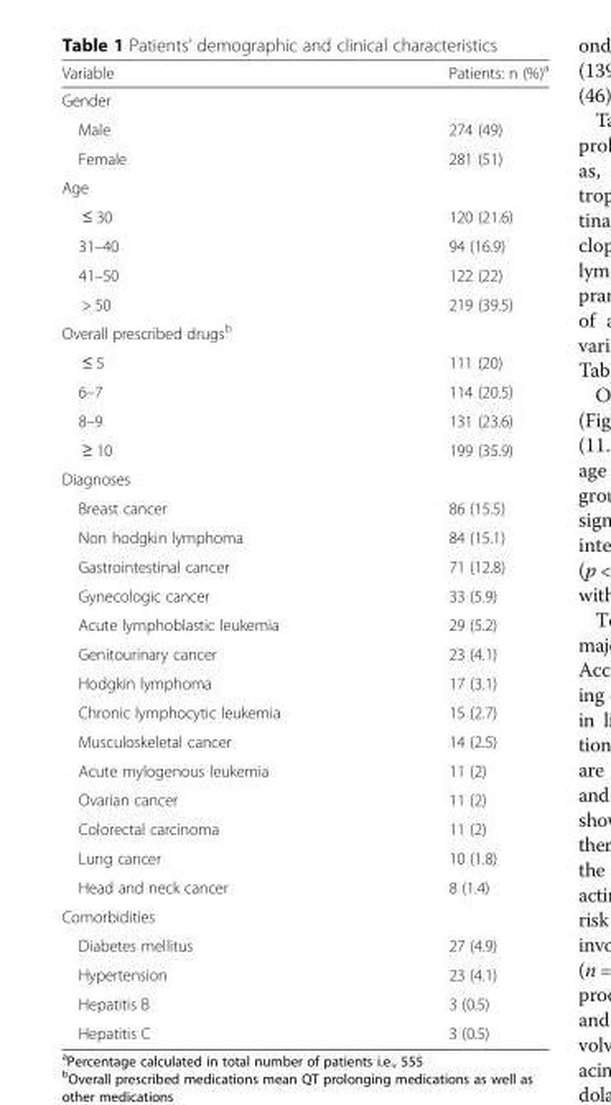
<table><thead><tr><td>Variable</td><td>Patients: n (%)<sup>a</sup></td></tr></thead><tbody><tr><td colspan="2">Gender</td></tr><tr><td>Male</td><td>274 (49)</td></tr><tr><td>Female</td><td>281 (51)</td></tr><tr><td colspan="2">Age</td></tr><tr><td>≤ 30</td><td>120 (21.6)</td></tr><tr><td>31–40</td><td>94 (16.9)</td></tr><tr><td>41–50</td><td>122 (22)</td></tr><tr><td>&gt; 50</td><td>219 (39.5)</td></tr><tr><td colspan="2">Overall prescribed drugs<sup>b</sup></td></tr><tr><td>≤ 5</td><td>111 (20)</td></tr><tr><td>6–7</td><td>114 (20.5)</td></tr><tr><td>8–9</td><td>131 (23.6)</td></tr><tr><td>≥ 10</td><td>199 (35.9)</td></tr><tr><td colspan="2">Diagnoses</td></tr><tr><td>Breast cancer</td><td>86 (15.5)</td></tr><tr><td>Non hodgkin lymphoma</td><td>84 (15.1)</td></tr><tr><td>Gastrointestinal cancer</td><td>71 (12.8)</td></tr><tr><td>Gynecologic cancer</td><td>33 (5.9)</td></tr><tr><td>Acute lymphoblastic leukemia</td><td>29 (5.2)</td></tr><tr><td>Genitourinary cancer</td><td>23 (4.1)</td></tr><tr><td>Hodgkin lymphoma</td><td>17 (3.1)</td></tr><tr><td>Chronic lymphocytic leukemia</td><td>15 (2.7)</td></tr><tr><td>Musculoskeletal cancer</td><td>14 (2.5)</td></tr><tr><td>Acute mylogenous leukemia</td><td>11 (2)</td></tr><tr><td>Ovarian cancer</td><td>11 (2)</td></tr><tr><td>Colorectal carcinoma</td><td>11 (2)</td></tr><tr><td>Lung cancer</td><td>10 (1.8)</td></tr><tr><td>Head and neck cancer</td><td>8 (1.4)</td></tr><tr><td colspan="2">Comorbidities</td></tr><tr><td>Diabetes mellitus</td><td>27 (4.9)</td></tr><tr><td>Hypertension</td><td>23 (4.1)</td></tr><tr><td>Hepatitis B</td><td>3 (0.5)</td></tr><tr><td>Hepatitis C</td><td>3 (0.5)</td></tr></tbody></table>